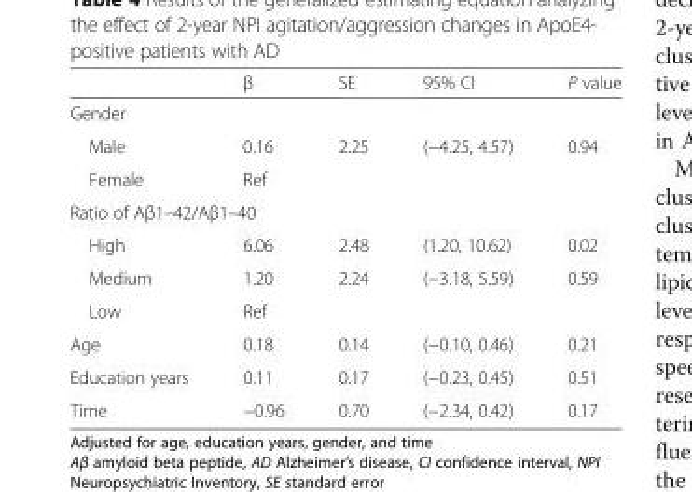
<table><thead><tr><td></td><td>β</td><td>SE</td><td>95% CI</td><td>P value</td></tr></thead><tbody><tr><td colspan="5">Gender</td></tr><tr><td>Male</td><td>0.16</td><td>2.25</td><td>(−4.25, 4.57)</td><td>0.94</td></tr><tr><td>Female</td><td>Ref</td><td></td><td></td><td></td></tr><tr><td colspan="5">Ratio of Aβ1–42/Aβ1–40</td></tr><tr><td>High</td><td>6.06</td><td>2.48</td><td>(1.20, 10.62)</td><td>0.02</td></tr><tr><td>Medium</td><td>1.20</td><td>2.24</td><td>(−3.18, 5.59)</td><td>0.59</td></tr><tr><td>Low</td><td>Ref</td><td></td><td></td><td></td></tr><tr><td>Age</td><td>0.18</td><td>0.14</td><td>(−0.10, 0.46)</td><td>0.21</td></tr><tr><td>Education years</td><td>0.11</td><td>0.17</td><td>(−0.23, 0.45)</td><td>0.51</td></tr><tr><td>Time</td><td>−0.96</td><td>0.70</td><td>(−2.34, 0.42)</td><td>0.17</td></tr></tbody></table>